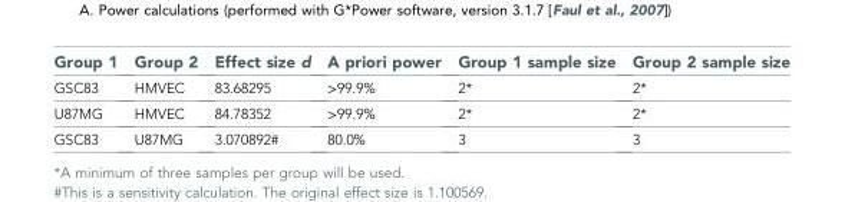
<table><thead><tr><td>Group 1</td><td>Group 2</td><td>Effect size d</td><td>A priori power</td><td>Group 1 sample size</td><td>Group 2 sample size</td></tr></thead><tbody><tr><td>GSC83</td><td>HMVEC</td><td>83.68295</td><td>&gt;99.9%</td><td>2*</td><td>2*</td></tr><tr><td>U87MG</td><td>HMVEC</td><td>84.78352</td><td>&gt;99.9%</td><td>2*</td><td>2*</td></tr><tr><td>GSC83</td><td>U87MG</td><td>3.070892#</td><td>80.0%</td><td>3</td><td>3</td></tr></tbody></table>